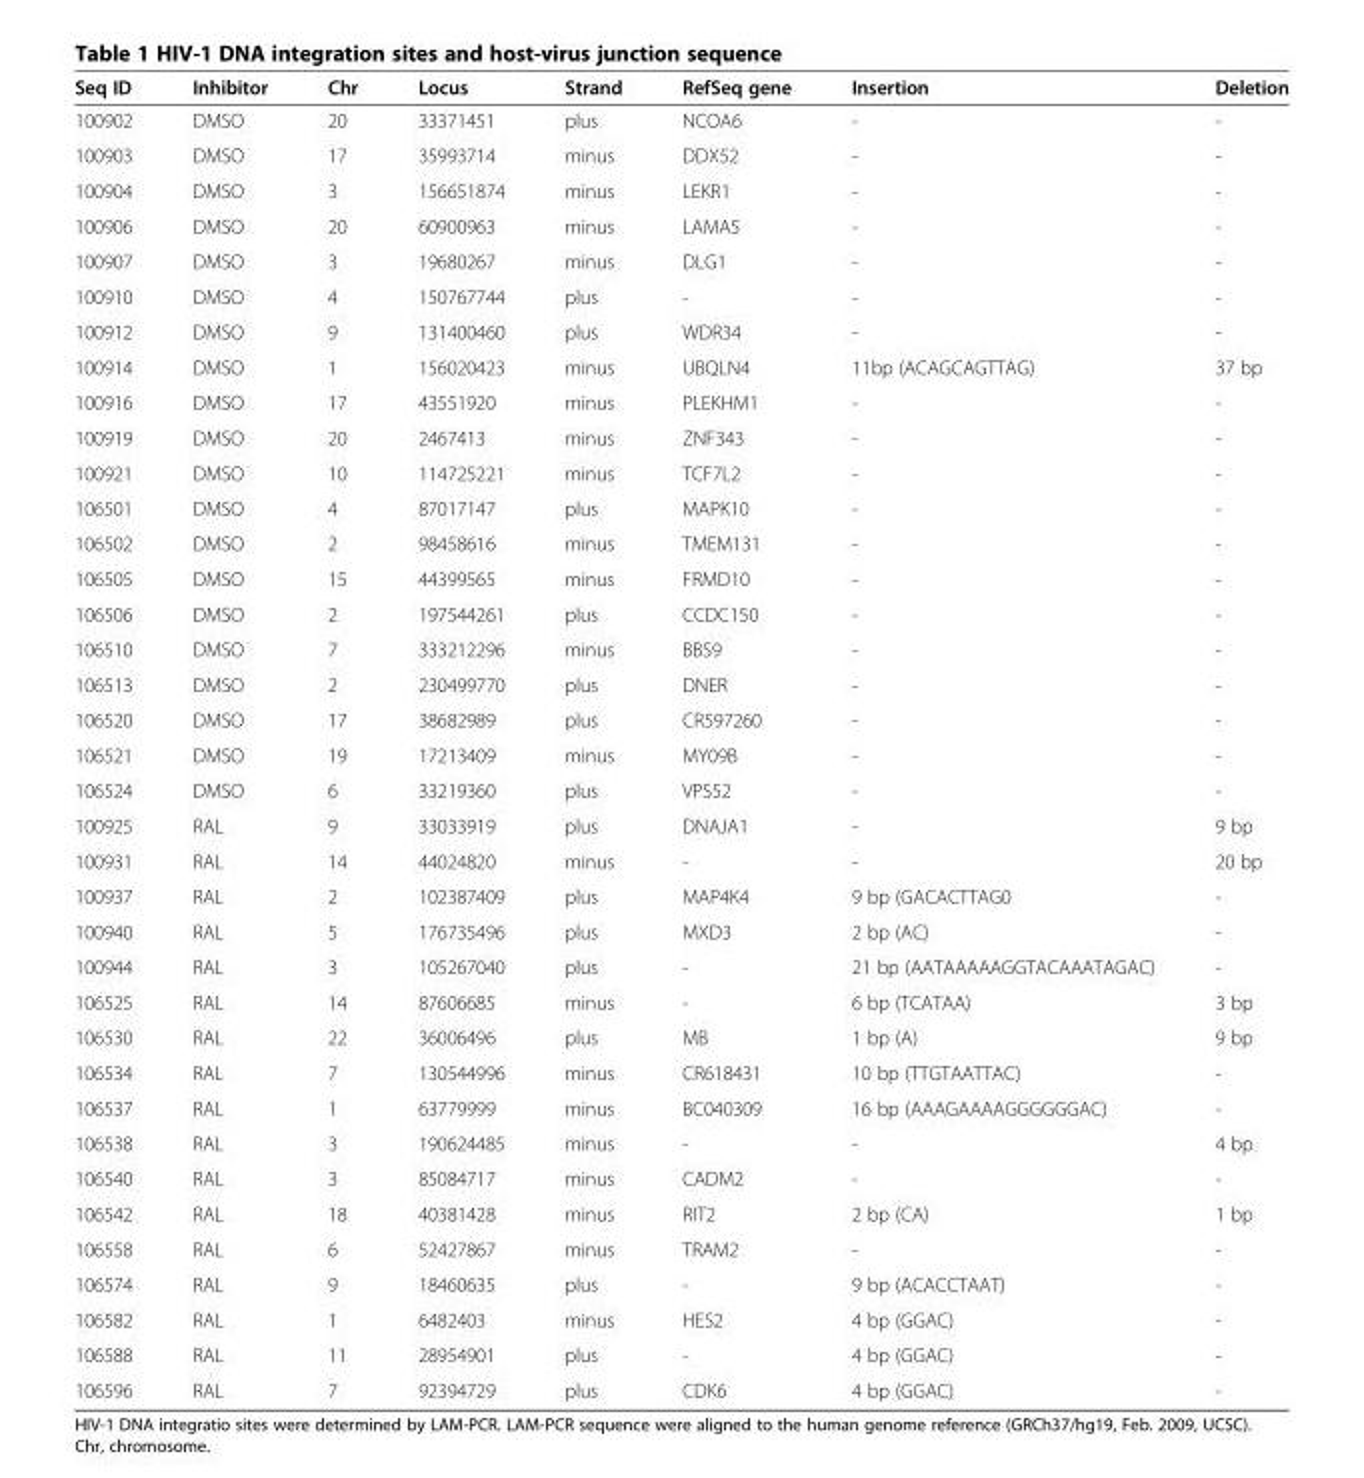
<table><thead><tr><td>Seq ID</td><td>Inhibitor</td><td>Chr</td><td>Locus</td><td>Strand</td><td>RefSeq gene</td><td>Insertion</td><td>Deletion</td></tr></thead><tbody><tr><td>100902</td><td>DMSO</td><td>20</td><td>33371451</td><td>plus</td><td>NCOA6</td><td>-</td><td>-</td></tr><tr><td>100903</td><td>DMSO</td><td>17</td><td>35993714</td><td>minus</td><td>DDX52</td><td>-</td><td>-</td></tr><tr><td>100904</td><td>DMSO</td><td>3</td><td>156651874</td><td>minus</td><td>LEKR1</td><td>-</td><td>-</td></tr><tr><td>100906</td><td>DMSO</td><td>20</td><td>60900963</td><td>minus</td><td>LAMA5</td><td>-</td><td>-</td></tr><tr><td>100907</td><td>DMSO</td><td>3</td><td>19680267</td><td>minus</td><td>DLG1</td><td>-</td><td>-</td></tr><tr><td>100910</td><td>DMSO</td><td>4</td><td>150767744</td><td>plus</td><td>-</td><td>-</td><td>-</td></tr><tr><td>100912</td><td>DMSO</td><td>9</td><td>131400460</td><td>plus</td><td>WDR34</td><td>-</td><td>-</td></tr><tr><td>100914</td><td>DMSO</td><td>1</td><td>156020423</td><td>minus</td><td>UBQLN4</td><td>11bp (ACAGCAGTTAG)</td><td>37 bp</td></tr><tr><td>100916</td><td>DMSO</td><td>17</td><td>43551920</td><td>minus</td><td>PLEKHM1</td><td>-</td><td>-</td></tr><tr><td>100919</td><td>DMSO</td><td>20</td><td>2467413</td><td>minus</td><td>ZNF343</td><td>-</td><td>-</td></tr><tr><td>100921</td><td>DMSO</td><td>10</td><td>114725221</td><td>minus</td><td>TCF7L2</td><td>-</td><td>-</td></tr><tr><td>106501</td><td>DMSO</td><td>4</td><td>87017147</td><td>plus</td><td>MAPK10</td><td>-</td><td>-</td></tr><tr><td>106502</td><td>DMSO</td><td>2</td><td>98458616</td><td>minus</td><td>TMEM131</td><td>-</td><td>-</td></tr><tr><td>106505</td><td>DMSO</td><td>15</td><td>44399565</td><td>minus</td><td>FRMD10</td><td>-</td><td>-</td></tr><tr><td>106506</td><td>DMSO</td><td>2</td><td>197544261</td><td>plus</td><td>CCDC150</td><td>-</td><td>-</td></tr><tr><td>106510</td><td>DMSO</td><td>7</td><td>333212296</td><td>minus</td><td>BBS9</td><td>-</td><td>-</td></tr><tr><td>106513</td><td>DMSO</td><td>2</td><td>230499770</td><td>plus</td><td>DNER</td><td>-</td><td>-</td></tr><tr><td>106520</td><td>DMSO</td><td>17</td><td>38682989</td><td>plus</td><td>CR597260</td><td>-</td><td>-</td></tr><tr><td>106521</td><td>DMSO</td><td>19</td><td>17213409</td><td>minus</td><td>MY09B</td><td>-</td><td>-</td></tr><tr><td>106524</td><td>DMSO</td><td>6</td><td>33219360</td><td>plus</td><td>VPS52</td><td>-</td><td>-</td></tr><tr><td>100925</td><td>RAL</td><td>9</td><td>33033919</td><td>plus</td><td>DNAJA1</td><td>-</td><td>9 bp</td></tr><tr><td>100931</td><td>RAL</td><td>14</td><td>44024820</td><td>minus</td><td>-</td><td>-</td><td>20 bp</td></tr><tr><td>100937</td><td>RAL</td><td>2</td><td>102387409</td><td>plus</td><td>MAP4K4</td><td>9 bp (GACACTTAG0</td><td>-</td></tr><tr><td>100940</td><td>RAL</td><td>5</td><td>176735496</td><td>plus</td><td>MXD3</td><td>2 bp (AC)</td><td>-</td></tr><tr><td>100944</td><td>RAL</td><td>3</td><td>105267040</td><td>plus</td><td>-</td><td>21 bp (AATAAAAAGGTACAAATAGAC)</td><td>-</td></tr><tr><td>106525</td><td>RAL</td><td>14</td><td>87606685</td><td>minus</td><td>-</td><td>6 bp (TCATAA)</td><td>3 bp</td></tr><tr><td>106530</td><td>RAL</td><td>22</td><td>36006496</td><td>plus</td><td>MB</td><td>1 bp (A)</td><td>9 bp</td></tr><tr><td>106534</td><td>RAL</td><td>7</td><td>130544996</td><td>minus</td><td>CR618431</td><td>10 bp (TTGTAATTAC)</td><td>-</td></tr><tr><td>106537</td><td>RAL</td><td>1</td><td>63779999</td><td>minus</td><td>BC040309</td><td>16 bp (AAAGAAAAGGGGGGAC)</td><td>-</td></tr><tr><td>106538</td><td>RAL</td><td>3</td><td>190624485</td><td>minus</td><td>-</td><td>-</td><td>4 bp</td></tr><tr><td>106540</td><td>RAL</td><td>3</td><td>85084717</td><td>minus</td><td>CADM2</td><td>-</td><td>-</td></tr><tr><td>106542</td><td>RAL</td><td>18</td><td>40381428</td><td>minus</td><td>RIT2</td><td>2 bp (CA)</td><td>1 bp</td></tr><tr><td>106558</td><td>RAL</td><td>6</td><td>52427867</td><td>minus</td><td>TRAM2</td><td>-</td><td>-</td></tr><tr><td>106574</td><td>RAL</td><td>9</td><td>18460635</td><td>plus</td><td>-</td><td>9 bp (ACACCTAAT)</td><td>-</td></tr><tr><td>106582</td><td>RAL</td><td>1</td><td>6482403</td><td>minus</td><td>HES2</td><td>4 bp (GGAC)</td><td>-</td></tr><tr><td>106588</td><td>RAL</td><td>11</td><td>28954901</td><td>plus</td><td>-</td><td>4 bp (GGAC)</td><td>-</td></tr><tr><td>106596</td><td>RAL</td><td>7</td><td>92394729</td><td>plus</td><td>CDK6</td><td>4 bp (GGAC)</td><td>-</td></tr></tbody></table>